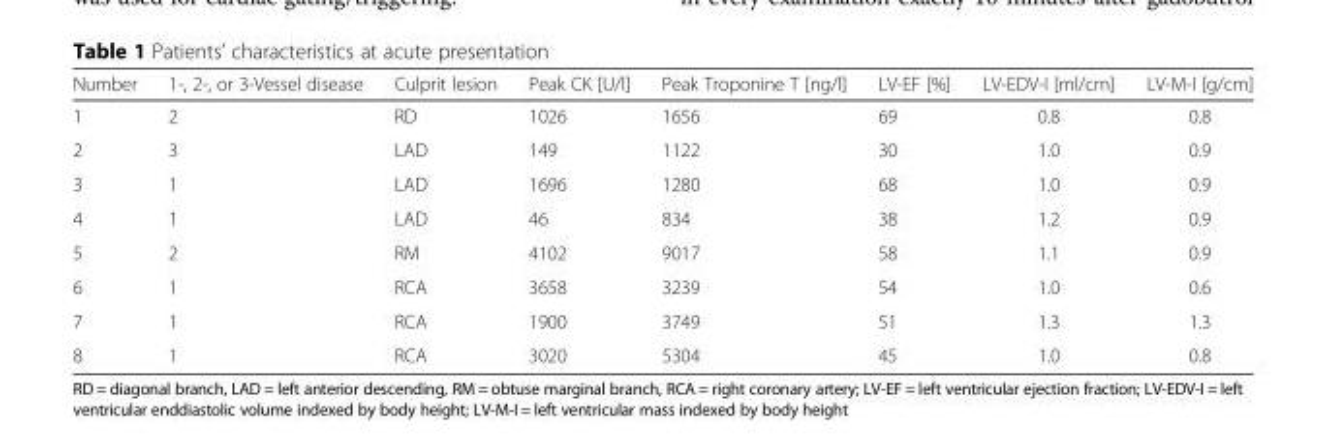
<table><thead><tr><td>Number</td><td>1-, 2-, or 3-Vessel disease</td><td>Culprit lesion</td><td>Peak CK [U/l]</td><td>Peak Troponine T [ng/l]</td><td>LV-EF [%]</td><td>LV-EDV-I [ml/cm]</td><td>LV-M-I [g/cm]</td></tr></thead><tbody><tr><td>1</td><td>2</td><td>RD</td><td>1026</td><td>1656</td><td>69</td><td>0.8</td><td>0.8</td></tr><tr><td>2</td><td>3</td><td>LAD</td><td>149</td><td>1122</td><td>30</td><td>1.0</td><td>0.9</td></tr><tr><td>3</td><td>1</td><td>LAD</td><td>1696</td><td>1280</td><td>68</td><td>1.0</td><td>0.9</td></tr><tr><td>4</td><td>1</td><td>LAD</td><td>46</td><td>834</td><td>38</td><td>1.2</td><td>0.9</td></tr><tr><td>5</td><td>2</td><td>RM</td><td>4102</td><td>9017</td><td>58</td><td>1.1</td><td>0.9</td></tr><tr><td>6</td><td>1</td><td>RCA</td><td>3658</td><td>3239</td><td>54</td><td>1.0</td><td>0.6</td></tr><tr><td>7</td><td>1</td><td>RCA</td><td>1900</td><td>3749</td><td>51</td><td>1.3</td><td>1.3</td></tr><tr><td>8</td><td>1</td><td>RCA</td><td>3020</td><td>5304</td><td>45</td><td>1.0</td><td>0.8</td></tr></tbody></table>